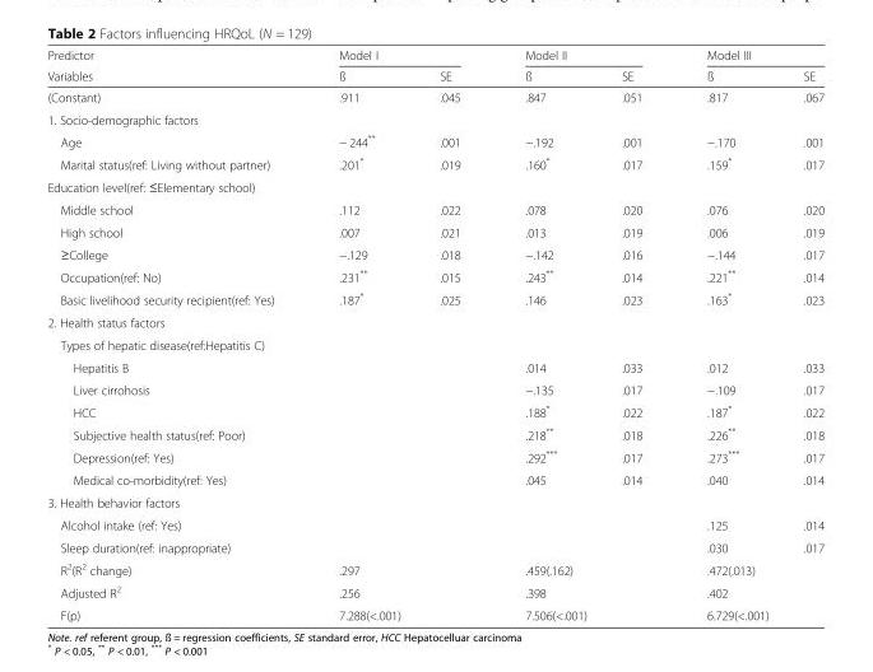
<table><thead><tr><td rowspan="2">Predictor Variables</td><td colspan="2">Model I</td><td colspan="2">Model II</td><td colspan="2">Model III</td></tr><tr><td>ß</td><td>SE</td><td>ß</td><td>SE</td><td>ß</td><td>SE</td></tr></thead><tbody><tr><td>(Constant)</td><td>.911</td><td>.045</td><td>.847</td><td>.051</td><td>.817</td><td>.067</td></tr><tr><td colspan="7">1. Socio-demographic factors</td></tr><tr><td>Age</td><td>− 244**</td><td>.001</td><td>−.192</td><td>.001</td><td>−.170</td><td>.001</td></tr><tr><td>Marital status(ref: Living without partner)</td><td>.201*</td><td>.019</td><td>.160*</td><td>.017</td><td>.159*</td><td>.017</td></tr><tr><td colspan="7">Education level(ref: ≤Elementary school)</td></tr><tr><td>Middle school</td><td>.112</td><td>.022</td><td>.078</td><td>.020</td><td>.076</td><td>.020</td></tr><tr><td>High school</td><td>.007</td><td>.021</td><td>.013</td><td>.019</td><td>.006</td><td>.019</td></tr><tr><td>≥College</td><td>−.129</td><td>.018</td><td>−.142</td><td>.016</td><td>−.144</td><td>.017</td></tr><tr><td>Occupation(ref: No)</td><td>.231**</td><td>.015</td><td>.243**</td><td>.014</td><td>.221**</td><td>.014</td></tr><tr><td>Basic livelihood security recipient(ref: Yes)</td><td>.187*</td><td>.025</td><td>.146</td><td>.023</td><td>.163*</td><td>.023</td></tr><tr><td colspan="7">2. Health status factors</td></tr><tr><td colspan="7">Types of hepatic disease(ref:Hepatitis C)</td></tr><tr><td>Hepatitis B</td><td></td><td></td><td>.014</td><td>.033</td><td>.012</td><td>.033</td></tr><tr><td>Liver cirrohosis</td><td></td><td></td><td>−.135</td><td>.017</td><td>−.109</td><td>.017</td></tr><tr><td>HCC</td><td></td><td></td><td>.188*</td><td>.022</td><td>.187*</td><td>.022</td></tr><tr><td>Subjective health status(ref: Poor)</td><td></td><td></td><td>.218**</td><td>.018</td><td>.226**</td><td>.018</td></tr><tr><td>Depression(ref: Yes)</td><td></td><td></td><td>.292***</td><td>.017</td><td>.273***</td><td>.017</td></tr><tr><td>Medical co-morbidity(ref: Yes)</td><td></td><td></td><td>.045</td><td>.014</td><td>.040</td><td>.014</td></tr><tr><td colspan="7">3. Health behavior factors</td></tr><tr><td>Alcohol intake (ref: Yes)</td><td></td><td></td><td></td><td></td><td>.125</td><td>.014</td></tr><tr><td>Sleep duration(ref: inappropriate)</td><td></td><td></td><td></td><td></td><td>.030</td><td>.017</td></tr><tr><td>R<sup>2</sup>(R<sup>2</sup> change)</td><td colspan="2">.297</td><td colspan="2">.459(.162)</td><td colspan="2">.472(.013)</td></tr><tr><td>Adjusted R<sup>2</sup></td><td colspan="2">.256</td><td colspan="2">.398</td><td colspan="2">.402</td></tr><tr><td>F(p)</td><td colspan="2">7.288(&lt;.001)</td><td colspan="2">7.506(&lt;.001)</td><td colspan="2">6.729(&lt;.001)</td></tr></tbody></table>